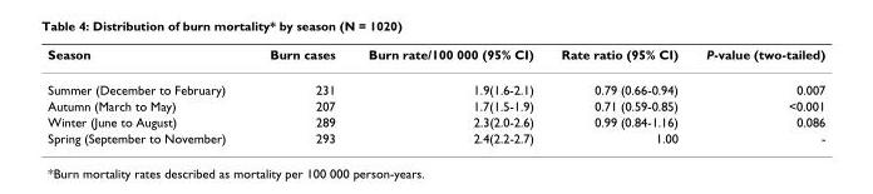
<table><thead><tr><td>Season</td><td>Burn cases</td><td>Burn rate/100 000 (95% CI)</td><td>Rate ratio (95% CI)</td><td>P-value (two-tailed)</td></tr></thead><tbody><tr><td>Summer (December to February)</td><td>231</td><td>1.9(1.6-2.1)</td><td>0.79 (0.66-0.94)</td><td>0.007</td></tr><tr><td>Autumn (March to May)</td><td>207</td><td>1.7(1.5-1.9)</td><td>0.71 (0.59-0.85)</td><td>&lt;0.001</td></tr><tr><td>Winter (June to August)</td><td>289</td><td>2.3(2.0-2.6)</td><td>0.99 (0.84-1.16)</td><td>0.086</td></tr><tr><td>Spring (September to November)</td><td>293</td><td>2.4(2.2-2.7)</td><td>1.00</td><td>-</td></tr></tbody></table>